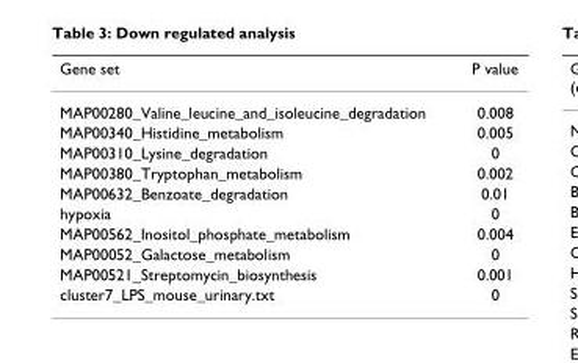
<table><thead><tr><td>Gene set</td><td>P value</td></tr></thead><tbody><tr><td>MAP00280_Valine_leucine_and_isoleucine_degradation</td><td>0.008</td></tr><tr><td>MAP00340_Histidine_metabolism</td><td>0.005</td></tr><tr><td>MAP00310_Lysine_degradation</td><td>0</td></tr><tr><td>MAP00380_Tryptophan_metabolism</td><td>0.002</td></tr><tr><td>MAP00632_Benzoate_degradation</td><td>0.01</td></tr><tr><td>hypoxia</td><td>0</td></tr><tr><td>MAP00562_Inositol_phosphate_metabolism</td><td>0.004</td></tr><tr><td>MAP00052_Galactose_metabolism</td><td>0</td></tr><tr><td>MAP00521_Streptomycin_biosynthesis</td><td>0.001</td></tr><tr><td>cluster7_LPS_mouse_urinary.txt</td><td>0</td></tr></tbody></table>